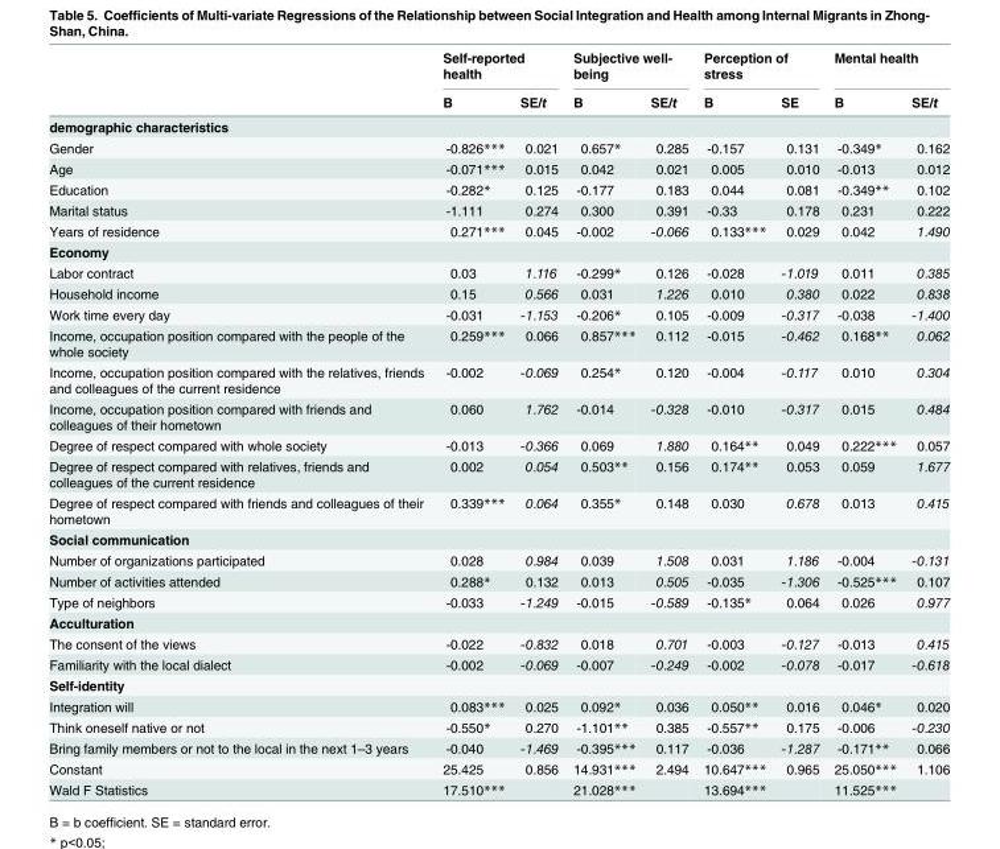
<table><thead><tr><td rowspan="2"></td><td colspan="2">Self-reported health</td><td colspan="2">Subjective well- being</td><td colspan="2">Perception of stress</td><td colspan="2">Mental health</td></tr><tr><td>B</td><td>SE/t</td><td>B</td><td>SE/t</td><td>B</td><td>SE</td><td>B</td><td>SE/t</td></tr></thead><tbody><tr><td colspan="9">demographic characteristics</td></tr><tr><td>Gender</td><td>-0.826***</td><td>0.021</td><td>0.657*</td><td>0.285</td><td>-0.157</td><td>0.131</td><td>-0.349*</td><td>0.162</td></tr><tr><td>Age</td><td>-0.071***</td><td>0.015</td><td>0.042</td><td>0.021</td><td>0.005</td><td>0.010</td><td>-0.013</td><td>0.012</td></tr><tr><td>Education</td><td>-0.282*</td><td>0.125</td><td>-0.177</td><td>0.183</td><td>0.044</td><td>0.081</td><td>-0.349**</td><td>0.102</td></tr><tr><td>Marital status</td><td>-1.111</td><td>0.274</td><td>0.300</td><td>0.391</td><td>-0.33</td><td>0.178</td><td>0.231</td><td>0.222</td></tr><tr><td>Years of residence</td><td>0.271***</td><td>0.045</td><td>-0.002</td><td>-0.066</td><td>0.133***</td><td>0.029</td><td>0.042</td><td>1.490</td></tr><tr><td colspan="9">Economy</td></tr><tr><td>Labor contract</td><td>0.03</td><td>1.116</td><td>-0.299*</td><td>0.126</td><td>-0.028</td><td>-1.019</td><td>0.011</td><td>0.385</td></tr><tr><td>Household income</td><td>0.15</td><td>0.566</td><td>0.031</td><td>1.226</td><td>0.010</td><td>0.380</td><td>0.022</td><td>0.838</td></tr><tr><td>Work time every day</td><td>-0.031</td><td>-1.153</td><td>-0.206*</td><td>0.105</td><td>-0.009</td><td>-0.317</td><td>-0.038</td><td>-1.400</td></tr><tr><td>Income, occupation position compared with the people of the whole society</td><td>0.259***</td><td>0.066</td><td>0.857***</td><td>0.112</td><td>-0.015</td><td>-0.462</td><td>0.168**</td><td>0.062</td></tr><tr><td>Income, occupation position compared with the relatives, friends and colleagues of the current residence</td><td>-0.002</td><td>-0.069</td><td>0.254*</td><td>0.120</td><td>-0.004</td><td>-0.117</td><td>0.010</td><td>0.304</td></tr><tr><td>Income, occupation position compared with friends and colleagues of their hometown</td><td>0.060</td><td>1.762</td><td>-0.014</td><td>-0.328</td><td>-0.010</td><td>-0.317</td><td>0.015</td><td>0.484</td></tr><tr><td>Degree of respect compared with whole society</td><td>-0.013</td><td>-0.366</td><td>0.069</td><td>1.880</td><td>0.164**</td><td>0.049</td><td>0.222***</td><td>0.057</td></tr><tr><td>Degree of respect compared with relatives, friends and colleagues of the current residence</td><td>0.002</td><td>0.054</td><td>0.503**</td><td>0.156</td><td>0.174**</td><td>0.053</td><td>0.059</td><td>1.677</td></tr><tr><td>Degree of respect compared with friends and colleagues of their hometown</td><td>0.339***</td><td>0.064</td><td>0.355*</td><td>0.148</td><td>0.030</td><td>0.678</td><td>0.013</td><td>0.415</td></tr><tr><td colspan="9">Social communication</td></tr><tr><td>Number of organizations participated</td><td>0.028</td><td>0.984</td><td>0.039</td><td>1.508</td><td>0.031</td><td>1.186</td><td>-0.004</td><td>-0.131</td></tr><tr><td>Number of activities attended</td><td>0.288*</td><td>0.132</td><td>0.013</td><td>0.505</td><td>-0.035</td><td>-1.306</td><td>-0.525***</td><td>0.107</td></tr><tr><td>Type of neighbors</td><td>-0.033</td><td>-1.249</td><td>-0.015</td><td>-0.589</td><td>-0.135*</td><td>0.064</td><td>0.026</td><td>0.977</td></tr><tr><td colspan="9">Acculturation</td></tr><tr><td>The consent of the views</td><td>-0.022</td><td>-0.832</td><td>0.018</td><td>0.701</td><td>-0.003</td><td>-0.127</td><td>-0.013</td><td>0.415</td></tr><tr><td>Familiarity with the local dialect</td><td>-0.002</td><td>-0.069</td><td>-0.007</td><td>-0.249</td><td>-0.002</td><td>-0.078</td><td>-0.017</td><td>-0.618</td></tr><tr><td colspan="9">Self-identity</td></tr><tr><td>Integration will</td><td>0.083***</td><td>0.025</td><td>0.092*</td><td>0.036</td><td>0.050**</td><td>0.016</td><td>0.046*</td><td>0.020</td></tr><tr><td>Think oneself native or not</td><td>-0.550*</td><td>0.270</td><td>-1.101**</td><td>0.385</td><td>-0.557**</td><td>0.175</td><td>-0.006</td><td>-0.230</td></tr><tr><td>Bring family members or not to the local in the next 1–3 years</td><td>-0.040</td><td>-1.469</td><td>-0.395***</td><td>0.117</td><td>-0.036</td><td>-1.287</td><td>-0.171**</td><td>0.066</td></tr><tr><td>Constant</td><td>25.425</td><td>0.856</td><td>14.931***</td><td>2.494</td><td>10.647***</td><td>0.965</td><td>25.050***</td><td>1.106</td></tr><tr><td>Wald F Statistics</td><td colspan="2">17.510***</td><td colspan="2">21.028***</td><td colspan="2">13.694***</td><td colspan="2">11.525***</td></tr></tbody></table>